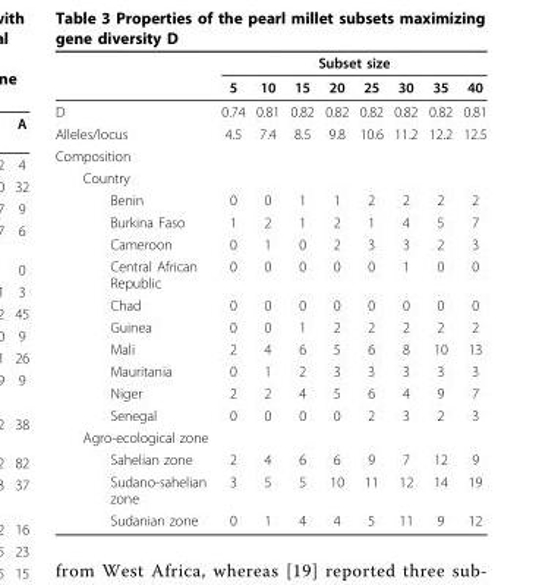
<table><thead><tr><td rowspan="2"></td><td colspan="8">Subset size</td></tr><tr><td>5</td><td>10</td><td>15</td><td>20</td><td>25</td><td>30</td><td>35</td><td>40</td></tr></thead><tbody><tr><td>D</td><td>0.74</td><td>0.81</td><td>0.82</td><td>0.82</td><td>0.82</td><td>0.82</td><td>0.82</td><td>0.81</td></tr><tr><td>Alleles/locus</td><td>4.5</td><td>7.4</td><td>8.5</td><td>9.8</td><td>10.6</td><td>11.2</td><td>12.2</td><td>12.5</td></tr><tr><td colspan="9">Composition</td></tr><tr><td colspan="9">Country</td></tr><tr><td>Benin</td><td>0</td><td>0</td><td>1</td><td>1</td><td>2</td><td>2</td><td>2</td><td>2</td></tr><tr><td>Burkina Faso</td><td>1</td><td>2</td><td>1</td><td>2</td><td>1</td><td>4</td><td>5</td><td>7</td></tr><tr><td>Cameroon</td><td>0</td><td>1</td><td>0</td><td>2</td><td>3</td><td>3</td><td>2</td><td>3</td></tr><tr><td>Central African Republic</td><td>0</td><td>0</td><td>0</td><td>0</td><td>0</td><td>1</td><td>0</td><td>0</td></tr><tr><td>Chad</td><td>0</td><td>0</td><td>0</td><td>0</td><td>0</td><td>0</td><td>0</td><td>0</td></tr><tr><td>Guinea</td><td>0</td><td>0</td><td>1</td><td>2</td><td>2</td><td>2</td><td>2</td><td>2</td></tr><tr><td>Mali</td><td>2</td><td>4</td><td>6</td><td>5</td><td>6</td><td>8</td><td>10</td><td>13</td></tr><tr><td>Mauritania</td><td>0</td><td>1</td><td>2</td><td>3</td><td>3</td><td>3</td><td>3</td><td>3</td></tr><tr><td>Niger</td><td>2</td><td>2</td><td>4</td><td>5</td><td>6</td><td>4</td><td>9</td><td>7</td></tr><tr><td>Senegal</td><td>0</td><td>0</td><td>0</td><td>0</td><td>2</td><td>3</td><td>2</td><td>3</td></tr><tr><td colspan="9">Agro-ecological zone</td></tr><tr><td>Sahelian zone</td><td>2</td><td>4</td><td>6</td><td>6</td><td>9</td><td>7</td><td>12</td><td>9</td></tr><tr><td>Sudano-sahelian zone</td><td>3</td><td>5</td><td>5</td><td>10</td><td>11</td><td>12</td><td>14</td><td>19</td></tr><tr><td>Sudanian zone</td><td>0</td><td>1</td><td>4</td><td>4</td><td>5</td><td>11</td><td>9</td><td>12</td></tr></tbody></table>